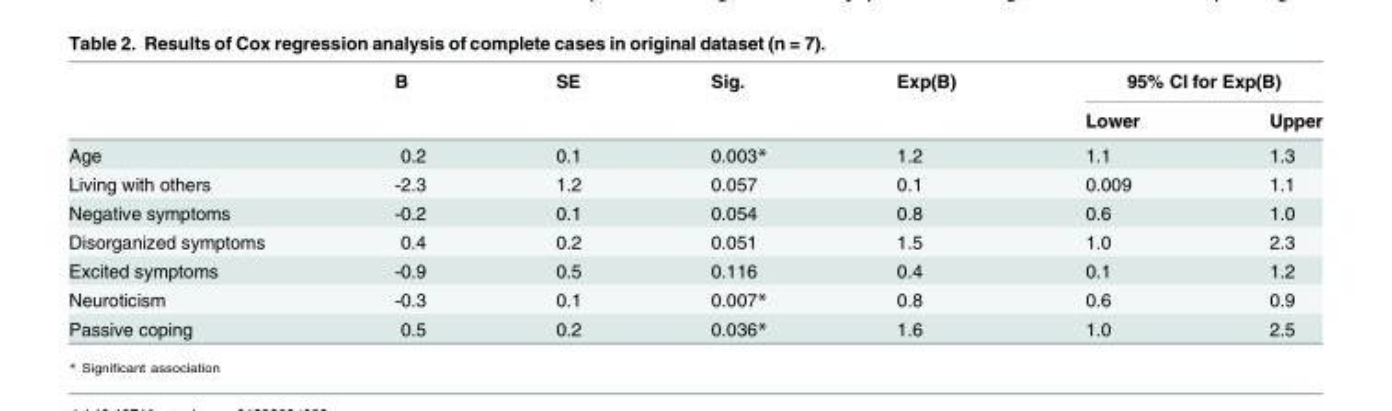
<table><thead><tr><td rowspan="2"></td><td rowspan="2">B</td><td rowspan="2">SE</td><td rowspan="2">Sig.</td><td rowspan="2">Exp(B)</td><td colspan="2">95% CI for Exp(B)</td></tr><tr><td>Lower</td><td>Upper</td></tr></thead><tbody><tr><td>Age</td><td>0.2</td><td>0.1</td><td>0.003*</td><td>1.2</td><td>1.1</td><td>1.3</td></tr><tr><td>Living with others</td><td>-2.3</td><td>1.2</td><td>0.057</td><td>0.1</td><td>0.009</td><td>1.1</td></tr><tr><td>Negative symptoms</td><td>-0.2</td><td>0.1</td><td>0.054</td><td>0.8</td><td>0.6</td><td>1.0</td></tr><tr><td>Disorganized symptoms</td><td>0.4</td><td>0.2</td><td>0.051</td><td>1.5</td><td>1.0</td><td>2.3</td></tr><tr><td>Excited symptoms</td><td>-0.9</td><td>0.5</td><td>0.116</td><td>0.4</td><td>0.1</td><td>1.2</td></tr><tr><td>Neuroticism</td><td>-0.3</td><td>0.1</td><td>0.007*</td><td>0.8</td><td>0.6</td><td>0.9</td></tr><tr><td>Passive coping</td><td>0.5</td><td>0.2</td><td>0.036*</td><td>1.6</td><td>1.0</td><td>2.5</td></tr></tbody></table>